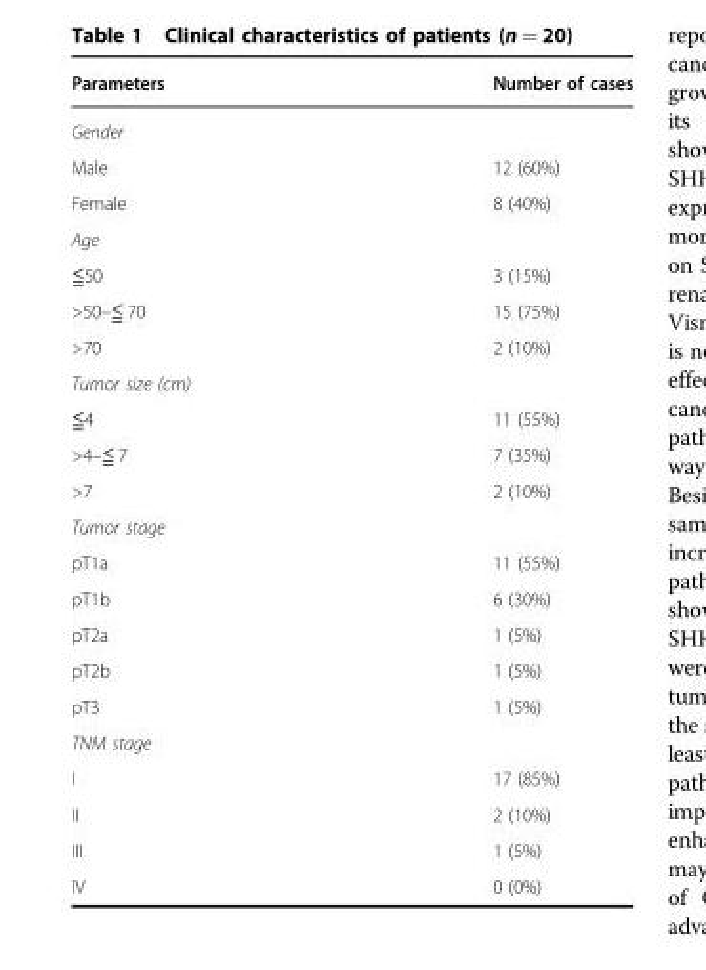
<table><thead><tr><td>Parameters</td><td>Number of cases</td></tr></thead><tbody><tr><td colspan="2">Gender</td></tr><tr><td>Male</td><td>12 (60%)</td></tr><tr><td>Female</td><td>8 (40%)</td></tr><tr><td colspan="2">Age</td></tr><tr><td>≦50</td><td>3 (15%)</td></tr><tr><td>&gt;50–≦ 70</td><td>15 (75%)</td></tr><tr><td>&gt;70</td><td>2 (10%)</td></tr><tr><td colspan="2">Tumor size (cm)</td></tr><tr><td>≦4</td><td>11 (55%)</td></tr><tr><td>&gt;4–≦ 7</td><td>7 (35%)</td></tr><tr><td>&gt;7</td><td>2 (10%)</td></tr><tr><td colspan="2">Tumor stage</td></tr><tr><td>pT1a</td><td>11 (55%)</td></tr><tr><td>pT1b</td><td>6 (30%)</td></tr><tr><td>pT2a</td><td>1 (5%)</td></tr><tr><td>pT2b</td><td>1 (5%)</td></tr><tr><td>pT3</td><td>1 (5%)</td></tr><tr><td colspan="2">TNM stage</td></tr><tr><td>I</td><td>17 (85%)</td></tr><tr><td>II</td><td>2 (10%)</td></tr><tr><td>III</td><td>1 (5%)</td></tr><tr><td>IV</td><td>0 (0%)</td></tr></tbody></table>